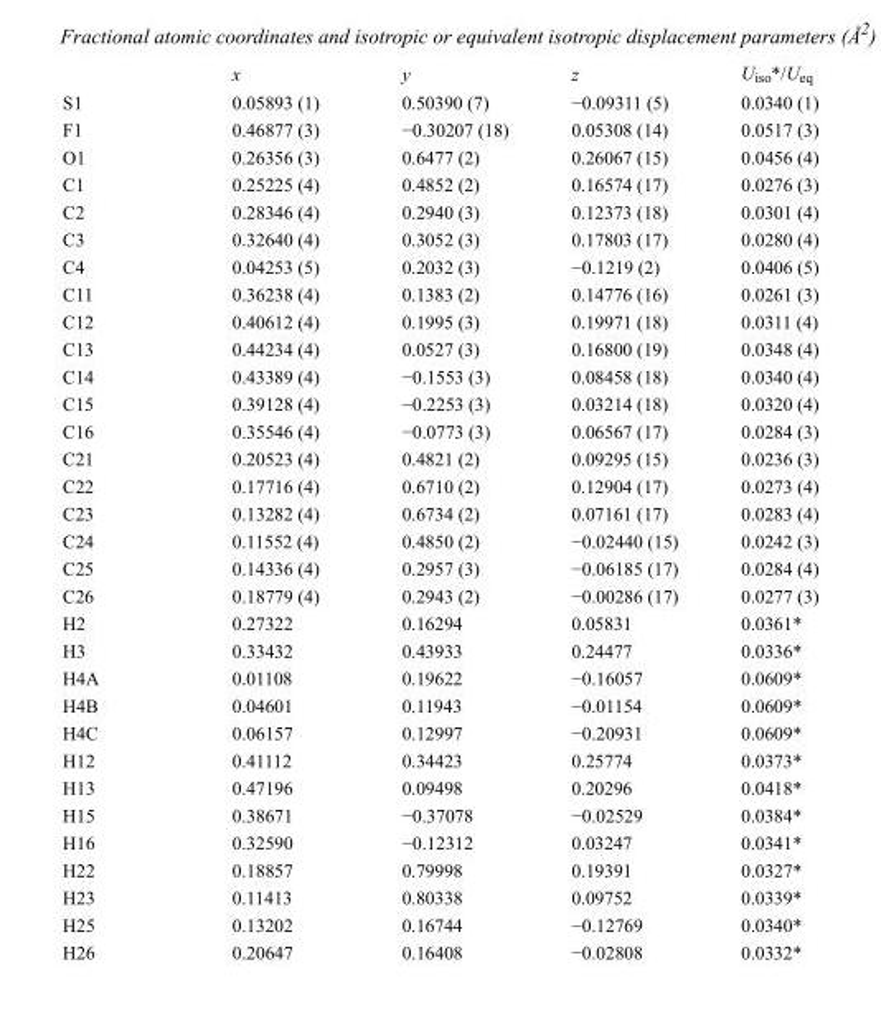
<table><thead><tr><td></td><td>x</td><td>y</td><td>z</td><td>U<sub>iso</sub>*/U<sub>eq</sub></td></tr></thead><tbody><tr><td>S1</td><td>0.05893 (1)</td><td>0.50390 (7)</td><td>−0.09311 (5)</td><td>0.0340 (1)</td></tr><tr><td>F1</td><td>0.46877 (3)</td><td>−0.30207 (18)</td><td>0.05308 (14)</td><td>0.0517 (3)</td></tr><tr><td>O1</td><td>0.26356 (3)</td><td>0.6477 (2)</td><td>0.26067 (15)</td><td>0.0456 (4)</td></tr><tr><td>C1</td><td>0.25225 (4)</td><td>0.4852 (2)</td><td>0.16574 (17)</td><td>0.0276 (3)</td></tr><tr><td>C2</td><td>0.28346 (4)</td><td>0.2940 (3)</td><td>0.12373 (18)</td><td>0.0301 (4)</td></tr><tr><td>C3</td><td>0.32640 (4)</td><td>0.3052 (3)</td><td>0.17803 (17)</td><td>0.0280 (4)</td></tr><tr><td>C4</td><td>0.04253 (5)</td><td>0.2032 (3)</td><td>−0.1219 (2)</td><td>0.0406 (5)</td></tr><tr><td>C11</td><td>0.36238 (4)</td><td>0.1383 (2)</td><td>0.14776 (16)</td><td>0.0261 (3)</td></tr><tr><td>C12</td><td>0.40612 (4)</td><td>0.1995 (3)</td><td>0.19971 (18)</td><td>0.0311 (4)</td></tr><tr><td>C13</td><td>0.44234 (4)</td><td>0.0527 (3)</td><td>0.16800 (19)</td><td>0.0348 (4)</td></tr><tr><td>C14</td><td>0.43389 (4)</td><td>−0.1553 (3)</td><td>0.08458 (18)</td><td>0.0340 (4)</td></tr><tr><td>C15</td><td>0.39128 (4)</td><td>−0.2253 (3)</td><td>0.03214 (18)</td><td>0.0320 (4)</td></tr><tr><td>C16</td><td>0.35546 (4)</td><td>−0.0773 (3)</td><td>0.06567 (17)</td><td>0.0284 (3)</td></tr><tr><td>C21</td><td>0.20523 (4)</td><td>0.4821 (2)</td><td>0.09295 (15)</td><td>0.0236 (3)</td></tr><tr><td>C22</td><td>0.17716 (4)</td><td>0.6710 (2)</td><td>0.12904 (17)</td><td>0.0273 (4)</td></tr><tr><td>C23</td><td>0.13282 (4)</td><td>0.6734 (2)</td><td>0.07161 (17)</td><td>0.0283 (4)</td></tr><tr><td>C24</td><td>0.11552 (4)</td><td>0.4850 (2)</td><td>−0.02440 (15)</td><td>0.0242 (3)</td></tr><tr><td>C25</td><td>0.14336 (4)</td><td>0.2957 (3)</td><td>−0.06185 (17)</td><td>0.0284 (4)</td></tr><tr><td>C26</td><td>0.18779 (4)</td><td>0.2943 (2)</td><td>−0.00286 (17)</td><td>0.0277 (3)</td></tr><tr><td>H2</td><td>0.27322</td><td>0.16294</td><td>0.05831</td><td>0.0361*</td></tr><tr><td>H3</td><td>0.33432</td><td>0.43933</td><td>0.24477</td><td>0.0336*</td></tr><tr><td>H4A</td><td>0.01108</td><td>0.19622</td><td>−0.16057</td><td>0.0609*</td></tr><tr><td>H4B</td><td>0.04601</td><td>0.11943</td><td>−0.01154</td><td>0.0609*</td></tr><tr><td>H4C</td><td>0.06157</td><td>0.12997</td><td>−0.20931</td><td>0.0609*</td></tr><tr><td>H12</td><td>0.41112</td><td>0.34423</td><td>0.25774</td><td>0.0373*</td></tr><tr><td>H13</td><td>0.47196</td><td>0.09498</td><td>0.20296</td><td>0.0418*</td></tr><tr><td>H15</td><td>0.38671</td><td>−0.37078</td><td>−0.02529</td><td>0.0384*</td></tr><tr><td>H16</td><td>0.32590</td><td>−0.12312</td><td>0.03247</td><td>0.0341*</td></tr><tr><td>H22</td><td>0.18857</td><td>0.79998</td><td>0.19391</td><td>0.0327*</td></tr><tr><td>H23</td><td>0.11413</td><td>0.80338</td><td>0.09752</td><td>0.0339*</td></tr><tr><td>H25</td><td>0.13202</td><td>0.16744</td><td>−0.12769</td><td>0.0340*</td></tr><tr><td>H26</td><td>0.20647</td><td>0.16408</td><td>−0.02808</td><td>0.0332*</td></tr></tbody></table>